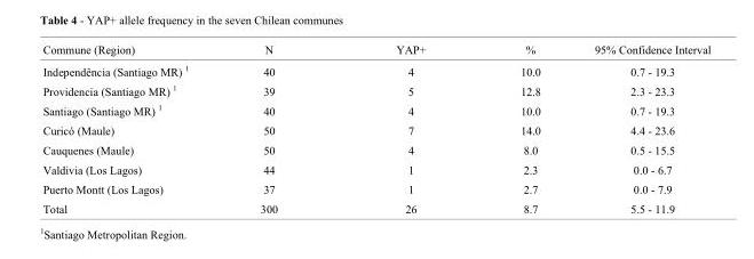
<table><thead><tr><td>Commune (Region)</td><td>N</td><td>YAP+</td><td>%</td><td>95% Confidence Interval</td></tr></thead><tbody><tr><td>Independência (Santiago MR) 1</td><td>40</td><td>4</td><td>10.0</td><td>0.7 - 19.3</td></tr><tr><td>Providencia (Santiago MR) 1</td><td>39</td><td>5</td><td>12.8</td><td>2.3 - 23.3</td></tr><tr><td>Santiago (Santiago MR) 1</td><td>40</td><td>4</td><td>10.0</td><td>0.7 - 19.3</td></tr><tr><td>Curicó (Maule)</td><td>50</td><td>7</td><td>14.0</td><td>4.4 - 23.6</td></tr><tr><td>Cauquenes (Maule)</td><td>50</td><td>4</td><td>8.0</td><td>0.5 - 15.5</td></tr><tr><td>Valdivia (Los Lagos)</td><td>44</td><td>1</td><td>2.3</td><td>0.0 - 6.7</td></tr><tr><td>Puerto Montt (Los Lagos)</td><td>37</td><td>1</td><td>2.7</td><td>0.0 - 7.9</td></tr><tr><td>Total</td><td>300</td><td>26</td><td>8.7</td><td>5.5 - 11.9</td></tr></tbody></table>